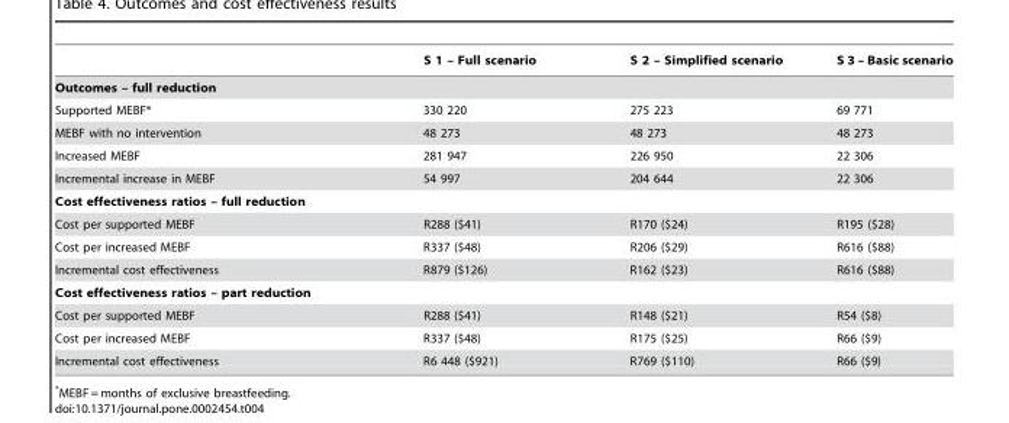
<table><thead><tr><td></td><td>S 1 – Full scenario</td><td>S 2 – Simplified scenario</td><td>S 3 – Basic scenario</td></tr></thead><tbody><tr><td colspan="4">Outcomes – full reduction</td></tr><tr><td>Supported MEBF*</td><td>330 220</td><td>275 223</td><td>69 771</td></tr><tr><td>MEBF with no intervention</td><td>48 273</td><td>48 273</td><td>48 273</td></tr><tr><td>Increased MEBF</td><td>281 947</td><td>226 950</td><td>22 306</td></tr><tr><td>Incremental increase in MEBF</td><td>54 997</td><td>204 644</td><td>22 306</td></tr><tr><td colspan="4">Cost effectiveness ratios – full reduction</td></tr><tr><td>Cost per supported MEBF</td><td>R288 ($41)</td><td>R170 ($24)</td><td>R195 ($28)</td></tr><tr><td>Cost per increased MEBF</td><td>R337 ($48)</td><td>R206 ($29)</td><td>R616 ($88)</td></tr><tr><td>Incremental cost effectiveness</td><td>R879 ($126)</td><td>R162 ($23)</td><td>R616 ($88)</td></tr><tr><td colspan="4">Cost effectiveness ratios – part reduction</td></tr><tr><td>Cost per supported MEBF</td><td>R288 ($41)</td><td>R148 ($21)</td><td>R54 ($8)</td></tr><tr><td>Cost per increased MEBF</td><td>R337 ($48)</td><td>R175 ($25)</td><td>R66 ($9)</td></tr><tr><td>Incremental cost effectiveness</td><td>R6 448 ($921)</td><td>R769 ($110)</td><td>R66 ($9)</td></tr></tbody></table>